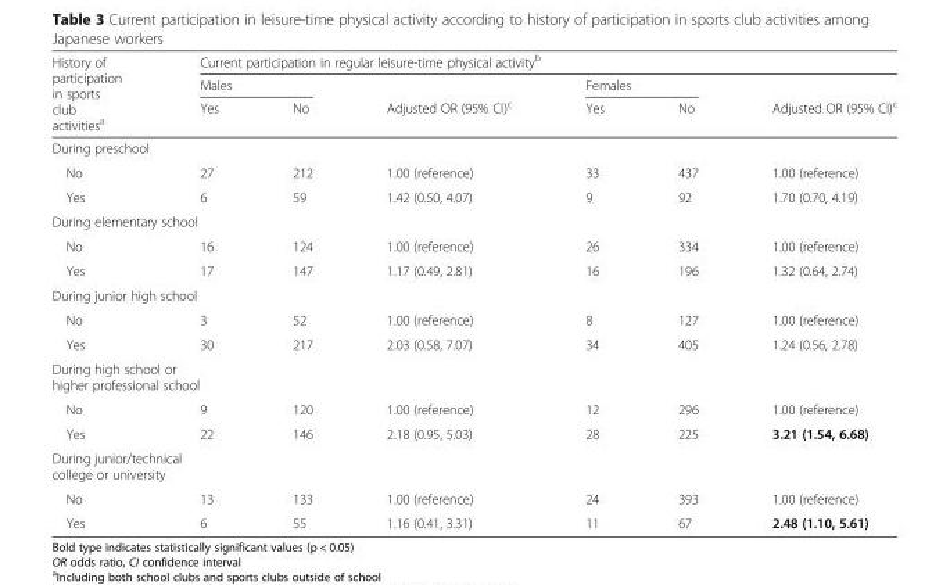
<table><thead><tr><td rowspan="3">History of participation in sports club activities<sup>a</sup></td><td colspan="6">Current participation in regular leisure-time physical activity<sup>b</sup></td></tr><tr><td colspan="2">Males</td><td rowspan="2">Adjusted OR (95% CI)<sup>c</sup></td><td colspan="2">Females</td><td rowspan="2">Adjusted OR (95% CI)<sup>c</sup></td></tr><tr><td>Yes</td><td>No</td><td>Yes</td><td>No</td></tr></thead><tbody><tr><td colspan="7">During preschool</td></tr><tr><td>No</td><td>27</td><td>212</td><td>1.00 (reference)</td><td>33</td><td>437</td><td>1.00 (reference)</td></tr><tr><td>Yes</td><td>6</td><td>59</td><td>1.42 (0.50, 4.07)</td><td>9</td><td>92</td><td>1.70 (0.70, 4.19)</td></tr><tr><td colspan="7">During elementary school</td></tr><tr><td>No</td><td>16</td><td>124</td><td>1.00 (reference)</td><td>26</td><td>334</td><td>1.00 (reference)</td></tr><tr><td>Yes</td><td>17</td><td>147</td><td>1.17 (0.49, 2.81)</td><td>16</td><td>196</td><td>1.32 (0.64, 2.74)</td></tr><tr><td colspan="7">During junior high school</td></tr><tr><td>No</td><td>3</td><td>52</td><td>1.00 (reference)</td><td>8</td><td>127</td><td>1.00 (reference)</td></tr><tr><td>Yes</td><td>30</td><td>217</td><td>2.03 (0.58, 7.07)</td><td>34</td><td>405</td><td>1.24 (0.56, 2.78)</td></tr><tr><td colspan="7">During high school or higher professional school</td></tr><tr><td>No</td><td>9</td><td>120</td><td>1.00 (reference)</td><td>12</td><td>296</td><td>1.00 (reference)</td></tr><tr><td>Yes</td><td>22</td><td>146</td><td>2.18 (0.95, 5.03)</td><td>28</td><td>225</td><td>3.21 (1.54, 6.68)</td></tr><tr><td colspan="7">During junior/technical college or university</td></tr><tr><td>No</td><td>13</td><td>133</td><td>1.00 (reference)</td><td>24</td><td>393</td><td>1.00 (reference)</td></tr><tr><td>Yes</td><td>6</td><td>55</td><td>1.16 (0.41, 3.31)</td><td>11</td><td>67</td><td>2.48 (1.10, 5.61)</td></tr></tbody></table>